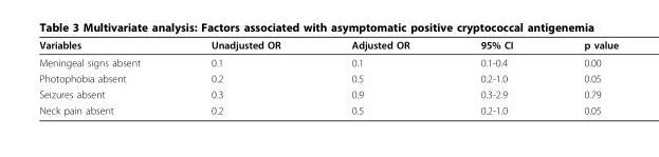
<table><thead><tr><td>Variables</td><td>Unadjusted OR</td><td>Adjusted OR</td><td>95% CI</td><td>p value</td></tr></thead><tbody><tr><td>Meningeal signs absent</td><td>0.1</td><td>0.1</td><td>0.1-0.4</td><td>0.00</td></tr><tr><td>Photophobia absent</td><td>0.2</td><td>0.5</td><td>0.2-1.0</td><td>0.05</td></tr><tr><td>Seizures absent</td><td>0.3</td><td>0.9</td><td>0.3-2.9</td><td>0.79</td></tr><tr><td>Neck pain absent</td><td>0.2</td><td>0.5</td><td>0.2-1.0</td><td>0.05</td></tr></tbody></table>